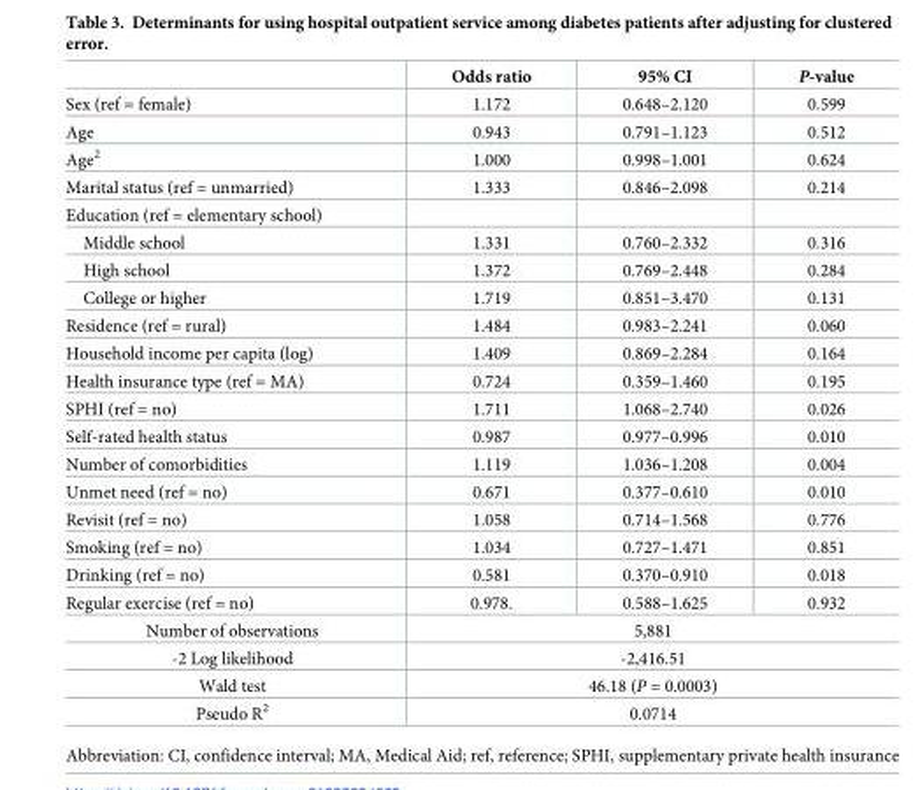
<table><thead><tr><td></td><td>Odds ratio</td><td>95% CI</td><td>P-value</td></tr></thead><tbody><tr><td>Sex (ref = female)</td><td>1.172</td><td>0.648–2.120</td><td>0.599</td></tr><tr><td>Age</td><td>0.943</td><td>0.791–1.123</td><td>0.512</td></tr><tr><td>Age<sup>2</sup></td><td>1.000</td><td>0.998–1.001</td><td>0.624</td></tr><tr><td>Marital status (ref = unmarried)</td><td>1.333</td><td>0.846–2.098</td><td>0.214</td></tr><tr><td colspan="4">Education (ref = elementary school)</td></tr><tr><td>Middle school</td><td>1.331</td><td>0.760–2.332</td><td>0.316</td></tr><tr><td>High school</td><td>1.372</td><td>0.769–2.448</td><td>0.284</td></tr><tr><td>College or higher</td><td>1.719</td><td>0.851–3.470</td><td>0.131</td></tr><tr><td>Residence (ref = rural)</td><td>1.484</td><td>0.983–2.241</td><td>0.060</td></tr><tr><td>Household income per capita (log)</td><td>1.409</td><td>0.869–2.284</td><td>0.164</td></tr><tr><td>Health insurance type (ref = MA)</td><td>0.724</td><td>0.359–1.460</td><td>0.195</td></tr><tr><td>SPHI (ref = no)</td><td>1.711</td><td>1.068–2.740</td><td>0.026</td></tr><tr><td>Self-rated health status</td><td>0.987</td><td>0.977–0.996</td><td>0.010</td></tr><tr><td>Number of comorbidities</td><td>1.119</td><td>1.036–1.208</td><td>0.004</td></tr><tr><td>Unmet need (ref = no)</td><td>0.671</td><td>0.377–0.610</td><td>0.010</td></tr><tr><td>Revisit (ref = no)</td><td>1.058</td><td>0.714–1.568</td><td>0.776</td></tr><tr><td>Smoking (ref = no)</td><td>1.034</td><td>0.727–1.471</td><td>0.851</td></tr><tr><td>Drinking (ref = no)</td><td>0.581</td><td>0.370–0.910</td><td>0.018</td></tr><tr><td>Regular exercise (ref = no)</td><td>0.978.</td><td>0.588–1.625</td><td>0.932</td></tr><tr><td>Number of observations</td><td colspan="3">5,881</td></tr><tr><td>-2 Log likelihood</td><td colspan="3">-2,416.51</td></tr><tr><td>Wald test</td><td colspan="3">46.18 (P = 0.0003)</td></tr><tr><td>Pseudo R<sup>2</sup></td><td colspan="3">0.0714</td></tr></tbody></table>